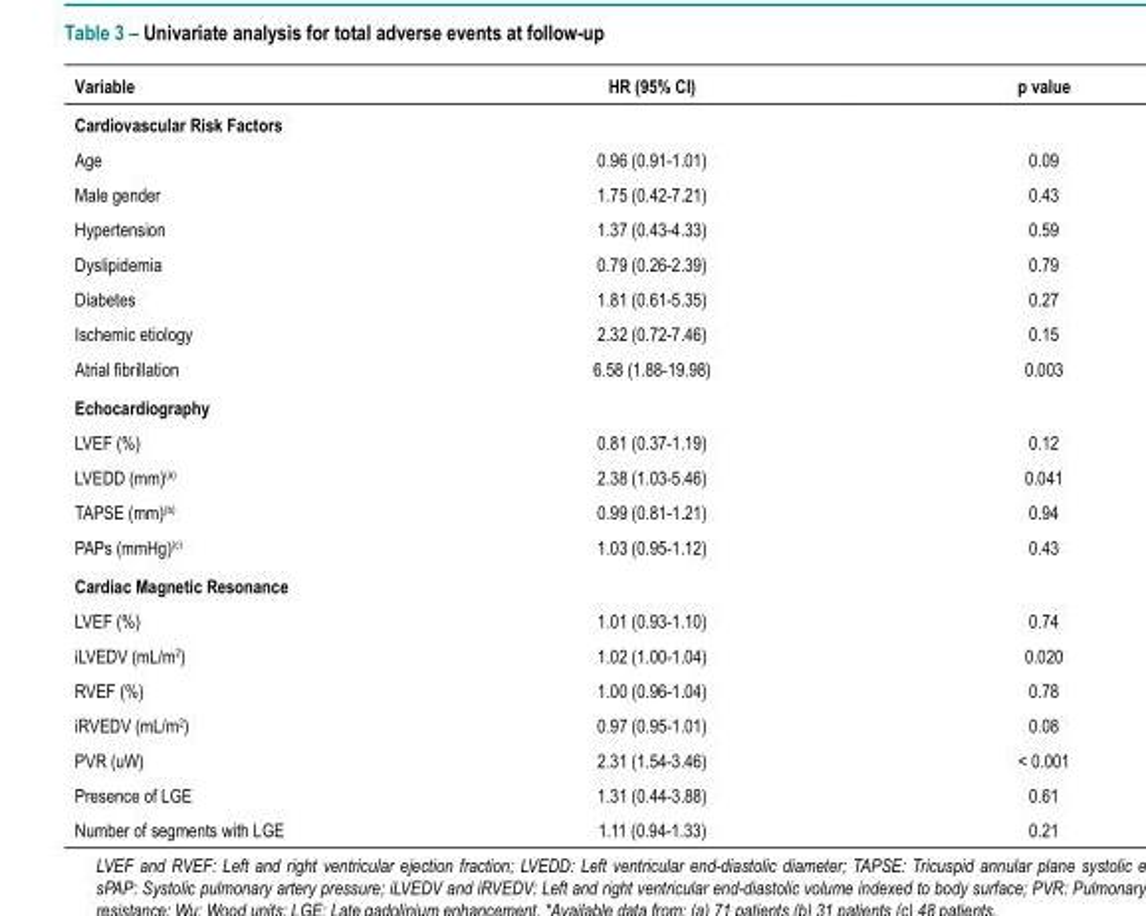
<table><thead><tr><td>Variable</td><td>HR (95% CI)</td><td>p value</td></tr></thead><tbody><tr><td colspan="3">Cardiovascular Risk Factors</td></tr><tr><td>Age</td><td>0.96 (0.91-1.01)</td><td>0.09</td></tr><tr><td>Male gender</td><td>1.75 (0.42-7.21)</td><td>0.43</td></tr><tr><td>Hypertension</td><td>1.37 (0.43-4.33)</td><td>0.59</td></tr><tr><td>Dyslipidemia</td><td>0.79 (0.26-2.39)</td><td>0.79</td></tr><tr><td>Diabetes</td><td>1.81 (0.61-5.35)</td><td>0.27</td></tr><tr><td>Ischemic etiology</td><td>2.32 (0.72-7.46)</td><td>0.15</td></tr><tr><td>Atrial fibrillation</td><td>6.58 (1.88-19.98)</td><td>0.003</td></tr><tr><td colspan="3">Echocardiography</td></tr><tr><td>LVEF (%)</td><td>0.81 (0.37-1.19)</td><td>0.12</td></tr><tr><td>LVEDD (mm)<sup>(a)</sup></td><td>2.38 (1.03-5.46)</td><td>0.041</td></tr><tr><td>TAPSE (mm)<sup>(b)</sup></td><td>0.99 (0.81-1.21)</td><td>0.94</td></tr><tr><td>PAPs (mmHg)<sup>(c)</sup></td><td>1.03 (0.95-1.12)</td><td>0.43</td></tr><tr><td colspan="3">Cardiac Magnetic Resonance</td></tr><tr><td>LVEF (%)</td><td>1.01 (0.93-1.10)</td><td>0.74</td></tr><tr><td>iLVEDV (mL/m<sup>2</sup>)</td><td>1.02 (1.00-1.04)</td><td>0.020</td></tr><tr><td>RVEF (%)</td><td>1.00 (0.96-1.04)</td><td>0.78</td></tr><tr><td>iRVEDV (mL/m<sup>2</sup>)</td><td>0.97 (0.95-1.01)</td><td>0.08</td></tr><tr><td>PVR (uW)</td><td>2.31 (1.54-3.46)</td><td>&lt; 0.001</td></tr><tr><td>Presence of LGE</td><td>1.31 (0.44-3.88)</td><td>0.61</td></tr><tr><td>Number of segments with LGE</td><td>1.11 (0.94-1.33)</td><td>0.21</td></tr></tbody></table>